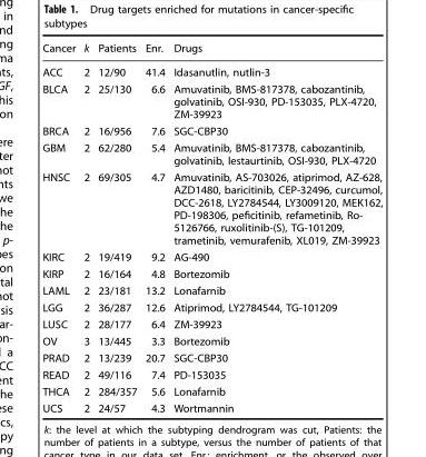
<table><thead><tr><td>Cancer</td><td>k</td><td>Patients</td><td>Enr.</td><td>Drugs</td></tr></thead><tbody><tr><td>ACC</td><td>2</td><td>12/90</td><td>41.4</td><td>Idasanutlin, nutlin-3</td></tr><tr><td>BLCA</td><td>2</td><td>25/130</td><td>6.6</td><td>Amuvatinib, BMS-817378, cabozantinib, golvatinib, OSI-930, PD-153035, PLX-4720, ZM-39923</td></tr><tr><td>BRCA</td><td>2</td><td>16/956</td><td>7.6</td><td>SGC-CBP30</td></tr><tr><td>GBM</td><td>2</td><td>62/280</td><td>5.4</td><td>Amuvatinib, BMS-817378, cabozantinib, golvatinib, lestaurtinib, OSI-930, PLX-4720</td></tr><tr><td>HNSC</td><td>2</td><td>69/305</td><td>4.7</td><td>Amuvatinib, AS-703026, atiprimod, AZ-628, AZD1480, baricitinib, CEP-32496, curcumol, DCC-2618, LY2784544, LY3009120, MEK162, PD-198306, peficitinib, refametinib, Ro- 5126766, ruxolitinib-(S), TG-101209, trametinib, vemurafenib, XL019, ZM-39923</td></tr><tr><td>KIRC</td><td>2</td><td>19/419</td><td>9.2</td><td>AG-490</td></tr><tr><td>KIRP</td><td>2</td><td>16/164</td><td>4.8</td><td>Bortezomib</td></tr><tr><td>LAML</td><td>2</td><td>23/181</td><td>13.2</td><td>Lonafarnib</td></tr><tr><td>LGG</td><td>2</td><td>36/287</td><td>12.6</td><td>Atiprimod, LY2784544, TG-101209</td></tr><tr><td>LUSC</td><td>2</td><td>28/177</td><td>6.4</td><td>ZM-39923</td></tr><tr><td>OV</td><td>3</td><td>13/445</td><td>3.3</td><td>Bortezomib</td></tr><tr><td>PRAD</td><td>2</td><td>13/239</td><td>20.7</td><td>SGC-CBP30</td></tr><tr><td>READ</td><td>2</td><td>49/116</td><td>7.4</td><td>PD-153035</td></tr><tr><td>THCA</td><td>2</td><td>284/357</td><td>5.6</td><td>Lonafarnib</td></tr><tr><td>UCS</td><td>2</td><td>24/57</td><td>4.3</td><td>Wortmannin</td></tr></tbody></table>